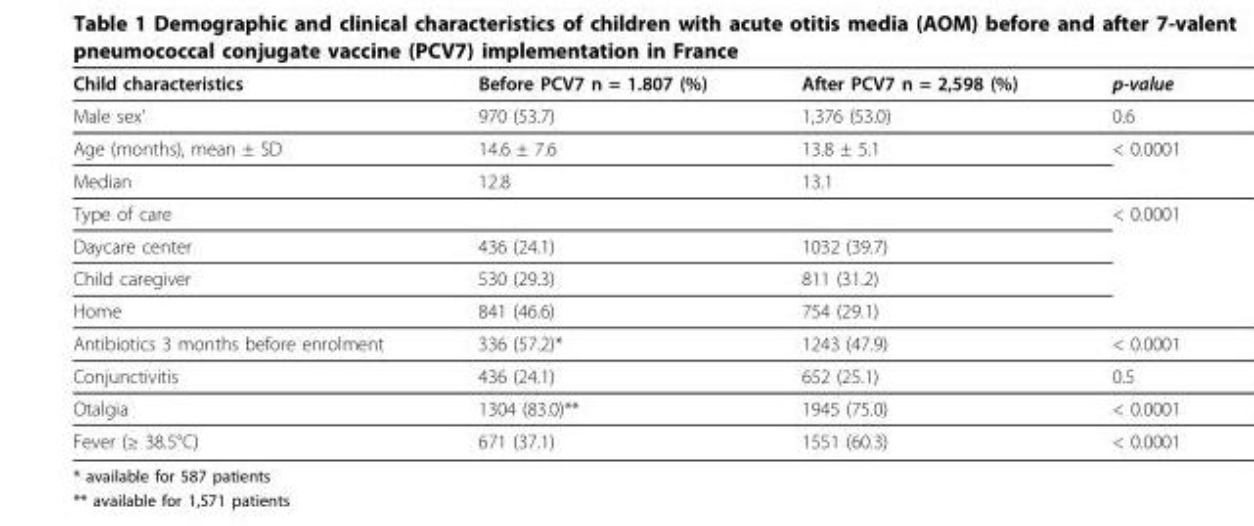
<table><thead><tr><td>Child characteristics</td><td>Before PCV7 n = 1.807 (%)</td><td>After PCV7 n = 2,598 (%)</td><td>p-value</td></tr></thead><tbody><tr><td>Male sex’</td><td>970 (53.7)</td><td>1,376 (53.0)</td><td>0.6</td></tr><tr><td>Age (months), mean ± SD</td><td>14.6 ± 7.6</td><td>13.8 ± 5.1</td><td>&lt; 0.0001</td></tr><tr><td>Median</td><td>12.8</td><td>13.1</td><td></td></tr><tr><td>Type of care</td><td></td><td></td><td>&lt; 0.0001</td></tr><tr><td>Daycare center</td><td>436 (24.1)</td><td>1032 (39.7)</td><td></td></tr><tr><td>Child caregiver</td><td>530 (29.3)</td><td>811 (31.2)</td><td></td></tr><tr><td>Home</td><td>841 (46.6)</td><td>754 (29.1)</td><td></td></tr><tr><td>Antibiotics 3 months before enrolment</td><td>336 (57.2)*</td><td>1243 (47.9)</td><td>&lt; 0.0001</td></tr><tr><td>Conjunctivitis</td><td>436 (24.1)</td><td>652 (25.1)</td><td>0.5</td></tr><tr><td>Otalgia</td><td>1304 (83.0)**</td><td>1945 (75.0)</td><td>&lt; 0.0001</td></tr><tr><td>Fever (≥ 38.5°C)</td><td>671 (37.1)</td><td>1551 (60.3)</td><td>&lt; 0.0001</td></tr></tbody></table>